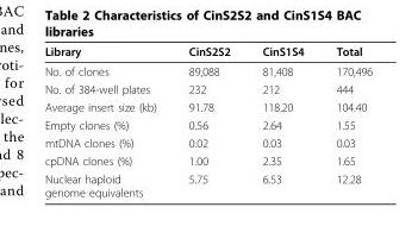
<table><thead><tr><td>Library</td><td>CinS2S2</td><td>CinS1S4</td><td>Total</td></tr></thead><tbody><tr><td>No. of clones</td><td>89,088</td><td>81,408</td><td>170,496</td></tr><tr><td>No. of 384-well plates</td><td>232</td><td>212</td><td>444</td></tr><tr><td>Average insert size (kb)</td><td>91.78</td><td>118.20</td><td>104.40</td></tr><tr><td>Empty clones (%)</td><td>0.56</td><td>2.64</td><td>1.55</td></tr><tr><td>mtDNA clones (%)</td><td>0.02</td><td>0.03</td><td>0.03</td></tr><tr><td>cpDNA clones (%)</td><td>1.00</td><td>2.35</td><td>1.65</td></tr><tr><td>Nuclear haploid genome equivalents</td><td>5.75</td><td>6.53</td><td>12.28</td></tr></tbody></table>